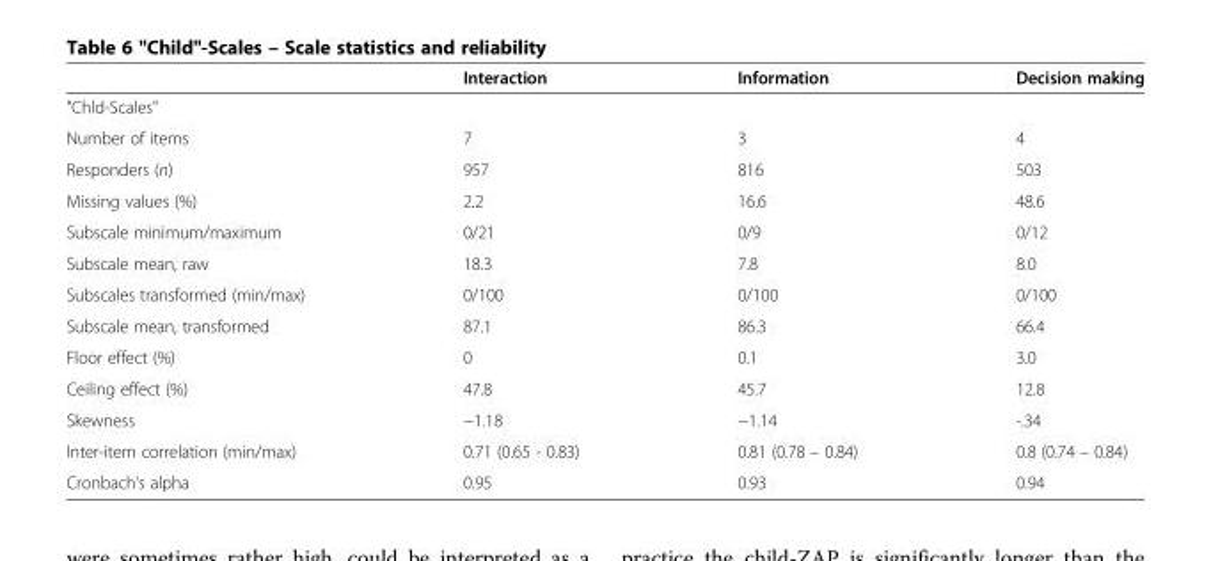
<table><thead><tr><td></td><td>Interaction</td><td>Information</td><td>Decision making</td></tr></thead><tbody><tr><td colspan="4">&quot;Chld-Scales&quot;</td></tr><tr><td>Number of items</td><td>7</td><td>3</td><td>4</td></tr><tr><td>Responders (n)</td><td>957</td><td>816</td><td>503</td></tr><tr><td>Missing values (%)</td><td>2.2</td><td>16.6</td><td>48.6</td></tr><tr><td>Subscale minimum/maximum</td><td>0/21</td><td>0/9</td><td>0/12</td></tr><tr><td>Subscale mean, raw</td><td>18.3</td><td>7.8</td><td>8.0</td></tr><tr><td>Subscales transformed (min/max)</td><td>0/100</td><td>0/100</td><td>0/100</td></tr><tr><td>Subscale mean, transformed</td><td>87.1</td><td>86.3</td><td>66.4</td></tr><tr><td>Floor effect (%)</td><td>0</td><td>0.1</td><td>3.0</td></tr><tr><td>Ceiling effect (%)</td><td>47.8</td><td>45.7</td><td>12.8</td></tr><tr><td>Skewness</td><td>−1.18</td><td>−1.14</td><td>-.34</td></tr><tr><td>Inter-item correlation (min/max)</td><td>0.71 (0.65 - 0.83)</td><td>0.81 (0.78 – 0.84)</td><td>0.8 (0.74 – 0.84)</td></tr><tr><td>Cronbach‘s alpha</td><td>0.95</td><td>0.93</td><td>0.94</td></tr></tbody></table>